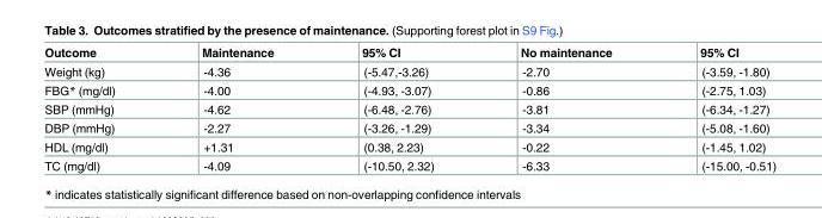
<table><thead><tr><td>Outcome</td><td>Maintenance</td><td>95% CI</td><td>No maintenance</td><td>95% CI</td></tr></thead><tbody><tr><td>Weight (kg)</td><td>-4.36</td><td>(-5.47,-3.26)</td><td>-2.70</td><td>(-3.59, -1.80)</td></tr><tr><td>FBG* (mg/dl)</td><td>-4.00</td><td>(-4.93, -3.07)</td><td>-0.86</td><td>(-2.75, 1.03)</td></tr><tr><td>SBP (mmHg)</td><td>-4.62</td><td>(-6.48, -2.76)</td><td>-3.81</td><td>(-6.34, -1.27)</td></tr><tr><td>DBP (mmHg)</td><td>-2.27</td><td>(-3.26, -1.29)</td><td>-3.34</td><td>(-5.08, -1.60)</td></tr><tr><td>HDL (mg/dl)</td><td>+1.31</td><td>(0.38, 2.23)</td><td>-0.22</td><td>(-1.45, 1.02)</td></tr><tr><td>TC (mg/dl)</td><td>-4.09</td><td>(-10.50, 2.32)</td><td>-6.33</td><td>(-15.00, -0.51)</td></tr></tbody></table>